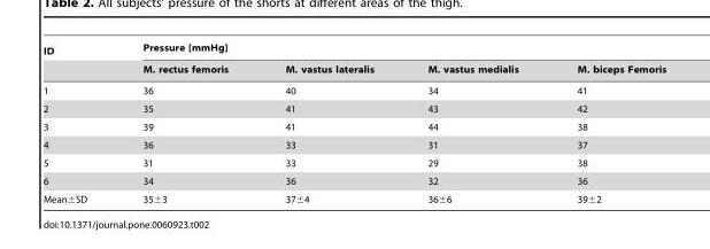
<table><thead><tr><td rowspan="2">ID</td><td colspan="4">Pressure [mmHg]</td></tr><tr><td>M. rectus femoris</td><td>M. vastus lateralis</td><td>M. vastus medialis</td><td>M. biceps Femoris</td></tr></thead><tbody><tr><td>1</td><td>36</td><td>40</td><td>34</td><td>41</td></tr><tr><td>2</td><td>35</td><td>41</td><td>43</td><td>42</td></tr><tr><td>3</td><td>39</td><td>41</td><td>44</td><td>38</td></tr><tr><td>4</td><td>36</td><td>33</td><td>31</td><td>37</td></tr><tr><td>5</td><td>31</td><td>33</td><td>29</td><td>38</td></tr><tr><td>6</td><td>34</td><td>36</td><td>32</td><td>36</td></tr><tr><td>Mean±SD</td><td>35±3</td><td>37±4</td><td>36±6</td><td>39±2</td></tr></tbody></table>